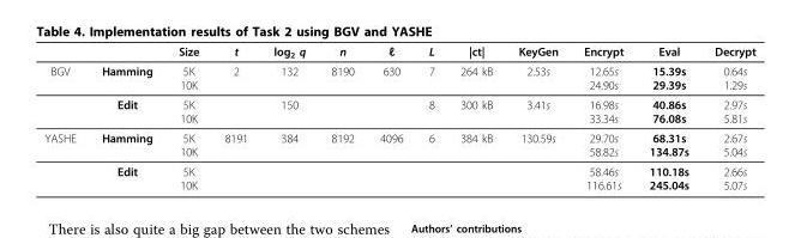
<table><thead><tr><td></td><td></td><td>Size</td><td>t</td><td>log<sub>2</sub> q</td><td>n</td><td>ℓ</td><td>L</td><td>|ct|</td><td>KeyGen</td><td>Encrypt</td><td>Eval</td><td>Decrypt</td></tr></thead><tbody><tr><td rowspan="2">BGV</td><td>Hamming</td><td>5K 10K</td><td>2</td><td>132</td><td>8190</td><td>630</td><td>7</td><td>264 kB</td><td>2.53s</td><td>12.65s 24.90s</td><td>15.39s 29.39s</td><td>0.64s 1.29s</td></tr><tr><td>Edit</td><td>5K 10K</td><td></td><td>150</td><td></td><td></td><td>8</td><td>300 kB</td><td>3.41s</td><td>16.98s 33.34s</td><td>40.86s 76.08s</td><td>2.97s 5.81s</td></tr><tr><td rowspan="2">YASHE</td><td>Hamming</td><td>5K 10K</td><td>8191</td><td>384</td><td>8192</td><td>4096</td><td>6</td><td>384 kB</td><td>130.59s</td><td>29.70s 58.82s</td><td>68.31s 134.87s</td><td>2.67s 5.04s</td></tr><tr><td>Edit</td><td>5K 10K</td><td></td><td></td><td></td><td></td><td></td><td></td><td></td><td>58.46s 116.61s</td><td>110.18s 245.04s</td><td>2.66s 5.07s</td></tr></tbody></table>